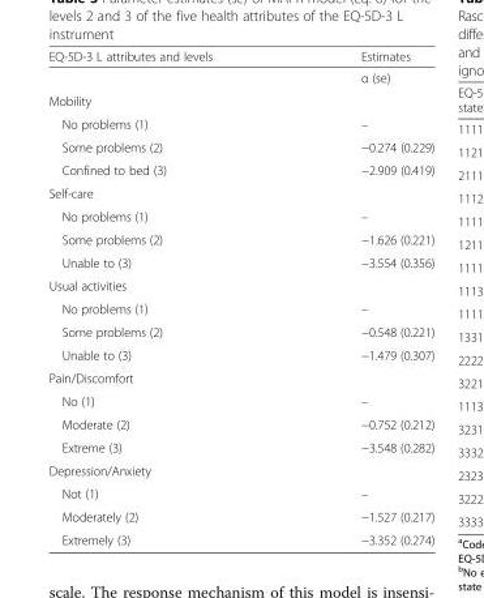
<table><thead><tr><td>EQ-5D-3 L attributes and levels</td><td>Estimates</td></tr></thead><tbody><tr><td></td><td>α (se)</td></tr><tr><td colspan="2">Mobility</td></tr><tr><td>No problems (1)</td><td>–</td></tr><tr><td>Some problems (2)</td><td>−0.274 (0.229)</td></tr><tr><td>Confined to bed (3)</td><td>−2.909 (0.419)</td></tr><tr><td colspan="2">Self-care</td></tr><tr><td>No problems (1)</td><td>–</td></tr><tr><td>Some problems (2)</td><td>−1.626 (0.221)</td></tr><tr><td>Unable to (3)</td><td>−3.554 (0.356)</td></tr><tr><td colspan="2">Usual activities</td></tr><tr><td>No problems (1)</td><td>–</td></tr><tr><td>Some problems (2)</td><td>−0.548 (0.221)</td></tr><tr><td>Unable to (3)</td><td>−1.479 (0.307)</td></tr><tr><td colspan="2">Pain/Discomfort</td></tr><tr><td>No (1)</td><td>–</td></tr><tr><td>Moderate (2)</td><td>−0.752 (0.212)</td></tr><tr><td>Extreme (3)</td><td>−3.548 (0.282)</td></tr><tr><td colspan="2">Depression/Anxiety</td></tr><tr><td>Not (1)</td><td>–</td></tr><tr><td>Moderately (2)</td><td>−1.527 (0.217)</td></tr><tr><td>Extremely (3)</td><td>−3.352 (0.274)</td></tr></tbody></table>